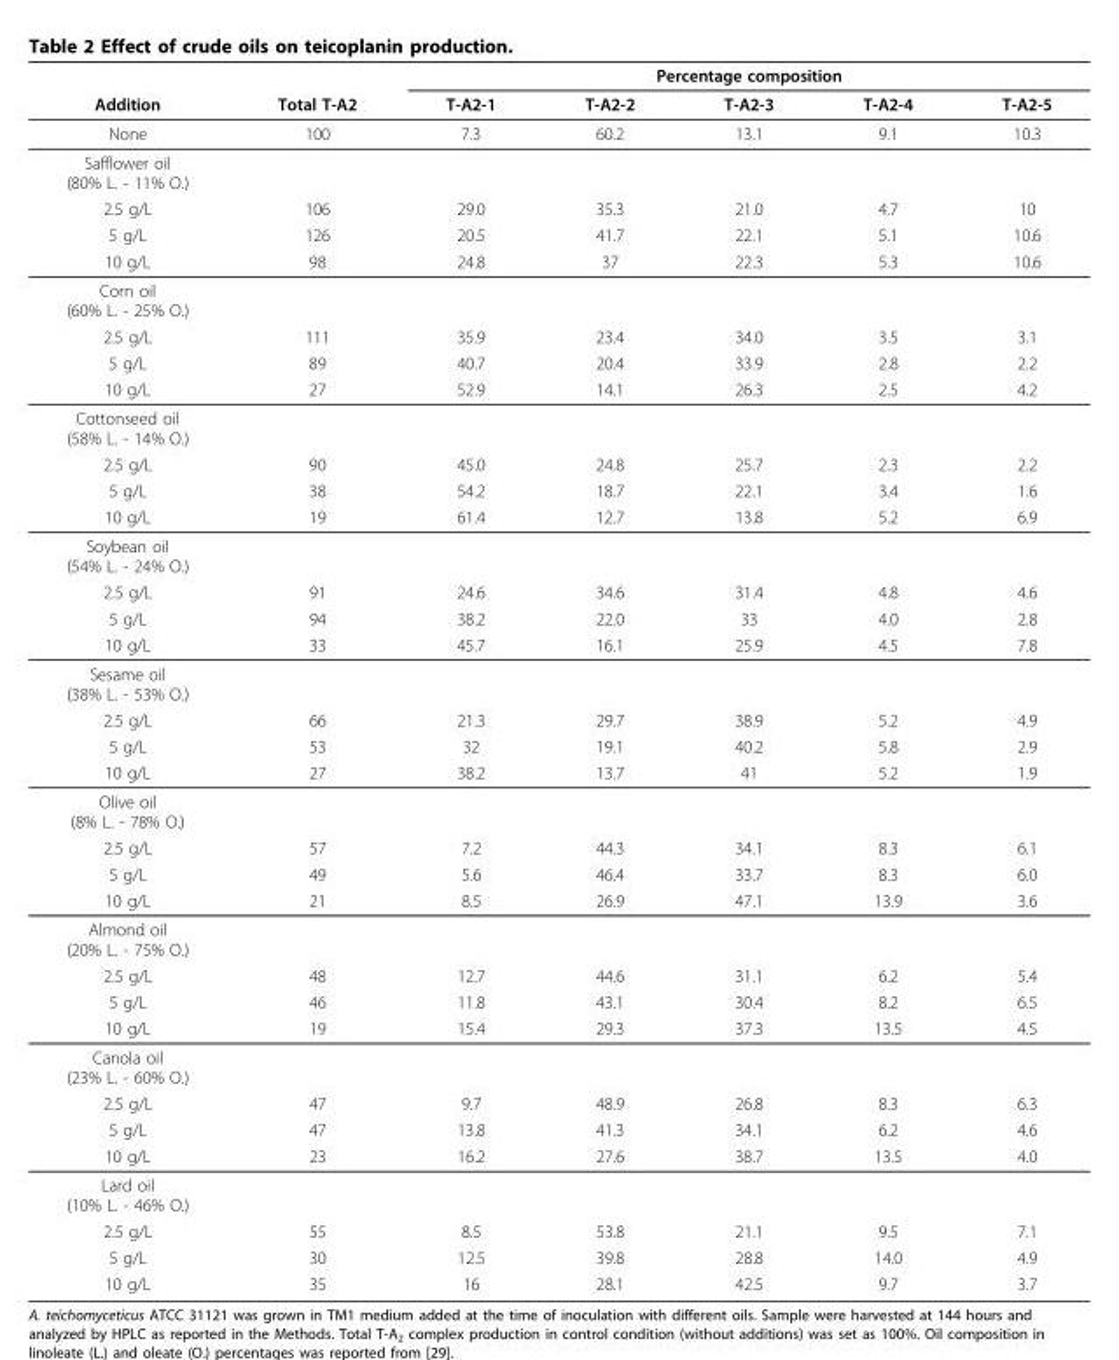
<table><thead><tr><td rowspan="2">Addition</td><td rowspan="2">Total T-A2</td><td colspan="5">Percentage composition</td></tr><tr><td>T-A2-1</td><td>T-A2-2</td><td>T-A2-3</td><td>T-A2-4</td><td>T-A2-5</td></tr></thead><tbody><tr><td>None</td><td>100</td><td>7.3</td><td>60.2</td><td>13.1</td><td>9.1</td><td>10.3</td></tr><tr><td colspan="7">Safflower oil (80% L. - 11% O.)</td></tr><tr><td>2.5 g/L</td><td>106</td><td>29.0</td><td>35.3</td><td>21.0</td><td>4.7</td><td>10</td></tr><tr><td>5 g/L</td><td>126</td><td>20.5</td><td>41.7</td><td>22.1</td><td>5.1</td><td>10.6</td></tr><tr><td>10 g/L</td><td>98</td><td>24.8</td><td>37</td><td>22.3</td><td>5.3</td><td>10.6</td></tr><tr><td colspan="7">Corn oil (60% L. - 25% O.)</td></tr><tr><td>2.5 g/L</td><td>111</td><td>35.9</td><td>23.4</td><td>34.0</td><td>3.5</td><td>3.1</td></tr><tr><td>5 g/L</td><td>89</td><td>40.7</td><td>20.4</td><td>33.9</td><td>2.8</td><td>2.2</td></tr><tr><td>10 g/L</td><td>27</td><td>52.9</td><td>14.1</td><td>26.3</td><td>2.5</td><td>4.2</td></tr><tr><td colspan="7">Cottonseed oil (58% L. - 14% O.)</td></tr><tr><td>2.5 g/L</td><td>90</td><td>45.0</td><td>24.8</td><td>25.7</td><td>2.3</td><td>2.2</td></tr><tr><td>5 g/L</td><td>38</td><td>54.2</td><td>18.7</td><td>22.1</td><td>3.4</td><td>1.6</td></tr><tr><td>10 g/L</td><td>19</td><td>61.4</td><td>12.7</td><td>13.8</td><td>5.2</td><td>6.9</td></tr><tr><td colspan="7">Soybean oil (54% L. - 24% O.)</td></tr><tr><td>2.5 g/L</td><td>91</td><td>24.6</td><td>34.6</td><td>31.4</td><td>4.8</td><td>4.6</td></tr><tr><td>5 g/L</td><td>94</td><td>38.2</td><td>22.0</td><td>33</td><td>4.0</td><td>2.8</td></tr><tr><td>10 g/L</td><td>33</td><td>45.7</td><td>16.1</td><td>25.9</td><td>4.5</td><td>7.8</td></tr><tr><td colspan="7">Sesame oil (38% L. - 53% O.)</td></tr><tr><td>2.5 g/L</td><td>66</td><td>21.3</td><td>29.7</td><td>38.9</td><td>5.2</td><td>4.9</td></tr><tr><td>5 g/L</td><td>53</td><td>32</td><td>19.1</td><td>40.2</td><td>5.8</td><td>2.9</td></tr><tr><td>10 g/L</td><td>27</td><td>38.2</td><td>13.7</td><td>41</td><td>5.2</td><td>1.9</td></tr><tr><td colspan="7">Olive oil (8% L. - 78% O.)</td></tr><tr><td>2.5 g/L</td><td>57</td><td>7.2</td><td>44.3</td><td>34.1</td><td>8.3</td><td>6.1</td></tr><tr><td>5 g/L</td><td>49</td><td>5.6</td><td>46.4</td><td>33.7</td><td>8.3</td><td>6.0</td></tr><tr><td>10 g/L</td><td>21</td><td>8.5</td><td>26.9</td><td>47.1</td><td>13.9</td><td>3.6</td></tr><tr><td colspan="7">Almond oil (20% L. - 75% O.)</td></tr><tr><td>2.5 g/L</td><td>48</td><td>12.7</td><td>44.6</td><td>31.1</td><td>6.2</td><td>5.4</td></tr><tr><td>5 g/L</td><td>46</td><td>11.8</td><td>43.1</td><td>30.4</td><td>8.2</td><td>6.5</td></tr><tr><td>10 g/L</td><td>19</td><td>15.4</td><td>29.3</td><td>37.3</td><td>13.5</td><td>4.5</td></tr><tr><td colspan="7">Canola oil (23% L. - 60% O.)</td></tr><tr><td>2.5 g/L</td><td>47</td><td>9.7</td><td>48.9</td><td>26.8</td><td>8.3</td><td>6.3</td></tr><tr><td>5 g/L</td><td>47</td><td>13.8</td><td>41.3</td><td>34.1</td><td>6.2</td><td>4.6</td></tr><tr><td>10 g/L</td><td>23</td><td>16.2</td><td>27.6</td><td>38.7</td><td>13.5</td><td>4.0</td></tr><tr><td colspan="7">Lard oil (10% L. - 46% O.)</td></tr><tr><td>2.5 g/L</td><td>55</td><td>8.5</td><td>53.8</td><td>21.1</td><td>9.5</td><td>7.1</td></tr><tr><td>5 g/L</td><td>30</td><td>12.5</td><td>39.8</td><td>28.8</td><td>14.0</td><td>4.9</td></tr><tr><td>10 g/L</td><td>35</td><td>16</td><td>28.1</td><td>42.5</td><td>9.7</td><td>3.7</td></tr></tbody></table>